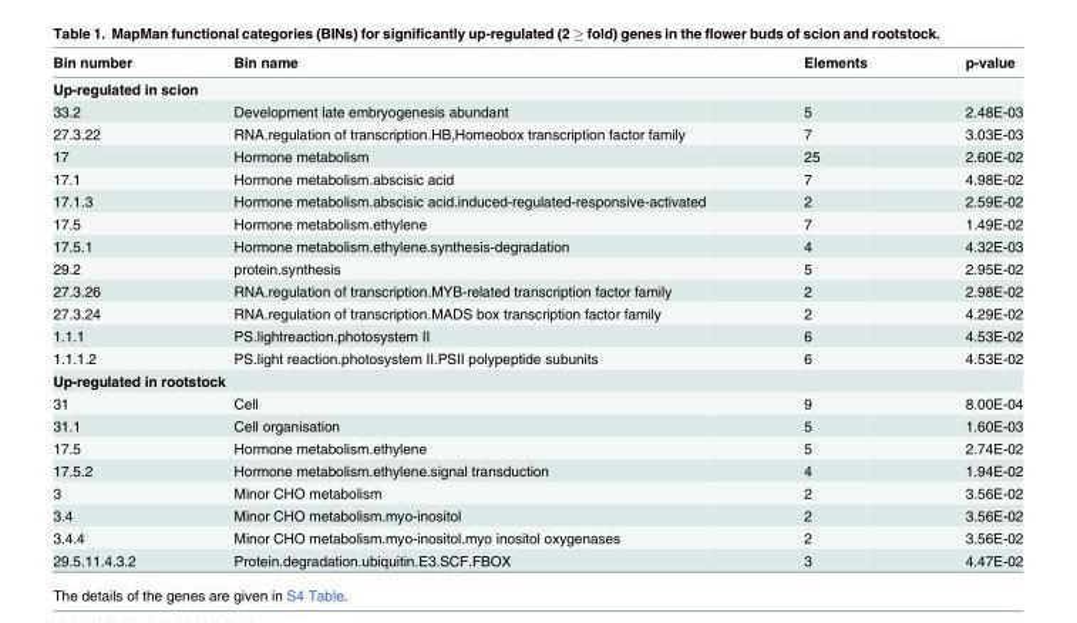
<table><thead><tr><td>Bin number</td><td>Bin name</td><td>Elements</td><td>p-value</td></tr></thead><tbody><tr><td colspan="4">Up-regulated in scion</td></tr><tr><td>33.2</td><td>Development late embryogenesis abundant</td><td>5</td><td>2.48E-03</td></tr><tr><td>27.3.22</td><td>RNA.regulation of transcription.HB,Homeobox transcription factor family</td><td>7</td><td>3.03E-03</td></tr><tr><td>17</td><td>Hormone metabolism</td><td>25</td><td>2.60E-02</td></tr><tr><td>17.1</td><td>Hormone metabolism.abscisic acid</td><td>7</td><td>4.98E-02</td></tr><tr><td>17.1.3</td><td>Hormone metabolism.abscisic acid.induced-regulated-responsive-activated</td><td>2</td><td>2.59E-02</td></tr><tr><td>17.5</td><td>Hormone metabolism.ethylene</td><td>7</td><td>1.49E-02</td></tr><tr><td>17.5.1</td><td>Hormone metabolism.ethylene.synthesis-degradation</td><td>4</td><td>4.32E-03</td></tr><tr><td>29.2</td><td>protein.synthesis</td><td>5</td><td>2.95E-02</td></tr><tr><td>27.3.26</td><td>RNA.regulation of transcription.MYB-related transcription factor family</td><td>2</td><td>2.98E-02</td></tr><tr><td>27.3.24</td><td>RNA.regulation of transcription.MADS box transcription factor family</td><td>2</td><td>4.29E-02</td></tr><tr><td>1.1.1</td><td>PS.lightreaction.photosystem II</td><td>6</td><td>4.53E-02</td></tr><tr><td>1.1.1.2</td><td>PS.light reaction.photosystem II.PSII polypeptide subunits</td><td>6</td><td>4.53E-02</td></tr><tr><td colspan="4">Up-regulated in rootstock</td></tr><tr><td>31</td><td>Cell</td><td>9</td><td>8.00E-04</td></tr><tr><td>31.1</td><td>Cell organisation</td><td>5</td><td>1.60E-03</td></tr><tr><td>17.5</td><td>Hormone metabolism.ethylene</td><td>5</td><td>2.74E-02</td></tr><tr><td>17.5.2</td><td>Hormone metabolism.ethylene.signal transduction</td><td>4</td><td>1.94E-02</td></tr><tr><td>3</td><td>Minor CHO metabolism</td><td>2</td><td>3.56E-02</td></tr><tr><td>3.4</td><td>Minor CHO metabolism.myo-inositol</td><td>2</td><td>3.56E-02</td></tr><tr><td>3.4.4</td><td>Minor CHO metabolism.myo-inositol.myo inositol oxygenases</td><td>2</td><td>3.56E-02</td></tr><tr><td>29.5.11.4.3.2</td><td>Protein.degradation.ubiquitin.E3.SCF.FBOX</td><td>3</td><td>4.47E-02</td></tr></tbody></table>